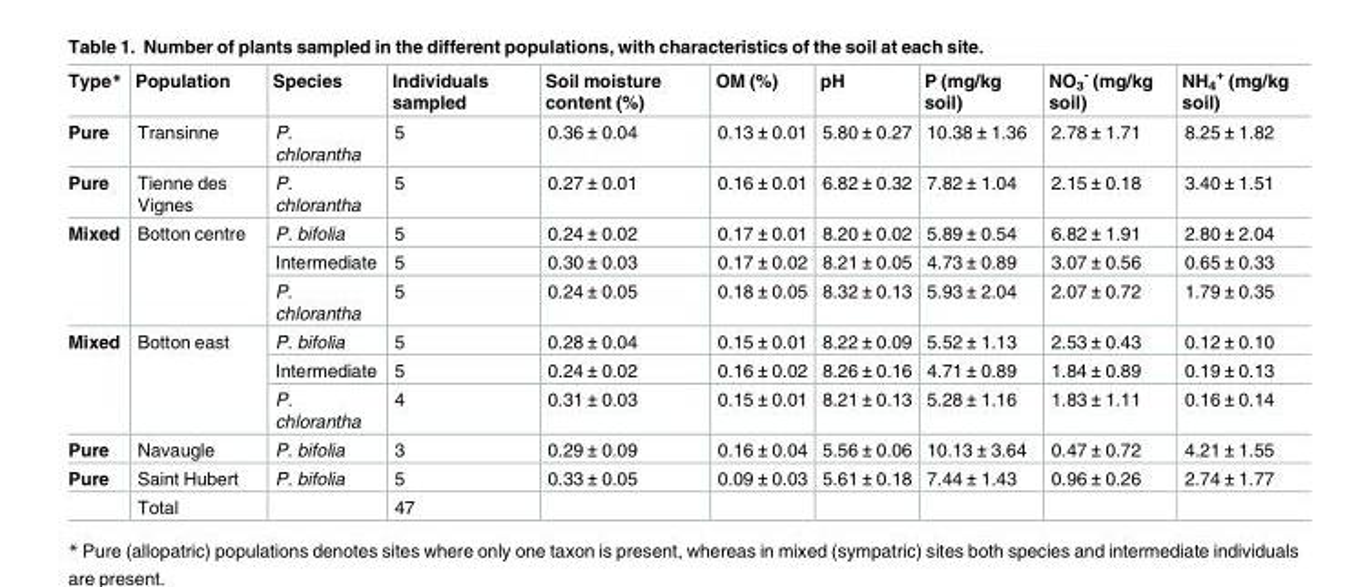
<table><thead><tr><td>Type*</td><td>Population</td><td>Species</td><td>Individuals sampled</td><td>Soil moisture content (%)</td><td>OM (%)</td><td>pH</td><td>P (mg/kg soil)</td><td>NO<sub>3</sub> <sup>-</sup> (mg/kg soil)</td><td>NH<sub>4</sub> <sup>+</sup> (mg/kg soil)</td></tr></thead><tbody><tr><td>Pure</td><td>Transinne</td><td>P. chlorantha</td><td>5</td><td>0.36 ± 0.04</td><td>0.13 ± 0.01</td><td>5.80 ± 0.27</td><td>10.38 ± 1.36</td><td>2.78 ± 1.71</td><td>8.25 ± 1.82</td></tr><tr><td>Pure</td><td>Tienne des Vignes</td><td>P. chlorantha</td><td>5</td><td>0.27 ± 0.01</td><td>0.16 ± 0.01</td><td>6.82 ± 0.32</td><td>7.82 ± 1.04</td><td>2.15 ± 0.18</td><td>3.40 ± 1.51</td></tr><tr><td rowspan="3">Mixed</td><td rowspan="3">Botton centre</td><td>P. bifolia</td><td>5</td><td>0.24 ± 0.02</td><td>0.17 ± 0.01</td><td>8.20 ± 0.02</td><td>5.89 ± 0.54</td><td>6.82 ± 1.91</td><td>2.80 ± 2.04</td></tr><tr><td>Intermediate</td><td>5</td><td>0.30 ± 0.03</td><td>0.17 ± 0.02</td><td>8.21 ± 0.05</td><td>4.73 ± 0.89</td><td>3.07 ± 0.56</td><td>0.65 ± 0.33</td></tr><tr><td>P. chlorantha</td><td>5</td><td>0.24 ± 0.05</td><td>0.18 ± 0.05</td><td>8.32 ± 0.13</td><td>5.93 ± 2.04</td><td>2.07 ± 0.72</td><td>1.79 ± 0.35</td></tr><tr><td rowspan="3">Mixed</td><td rowspan="3">Botton east</td><td>P. bifolia</td><td>5</td><td>0.28 ± 0.04</td><td>0.15 ± 0.01</td><td>8.22 ± 0.09</td><td>5.52 ± 1.13</td><td>2.53 ± 0.43</td><td>0.12 ± 0.10</td></tr><tr><td>Intermediate</td><td>5</td><td>0.24 ± 0.02</td><td>0.16 ± 0.02</td><td>8.26 ± 0.16</td><td>4.71 ± 0.89</td><td>1.84 ± 0.89</td><td>0.19 ± 0.13</td></tr><tr><td>P. chlorantha</td><td>4</td><td>0.31 ± 0.03</td><td>0.15 ± 0.01</td><td>8.21 ± 0.13</td><td>5.28 ± 1.16</td><td>1.83 ± 1.11</td><td>0.16 ± 0.14</td></tr><tr><td>Pure</td><td>Navaugle</td><td>P. bifolia</td><td>3</td><td>0.29 ± 0.09</td><td>0.16 ± 0.04</td><td>5.56 ± 0.06</td><td>10.13 ± 3.64</td><td>0.47 ± 0.72</td><td>4.21 ± 1.55</td></tr><tr><td rowspan="2">Pure</td><td>Saint Hubert</td><td>P. bifolia</td><td>5</td><td>0.33 ± 0.05</td><td>0.09 ± 0.03</td><td>5.61 ± 0.18</td><td>7.44 ± 1.43</td><td>0.96 ± 0.26</td><td>2.74 ± 1.77</td></tr><tr><td>Total</td><td></td><td>47</td><td></td><td></td><td></td><td></td><td></td><td></td></tr></tbody></table>